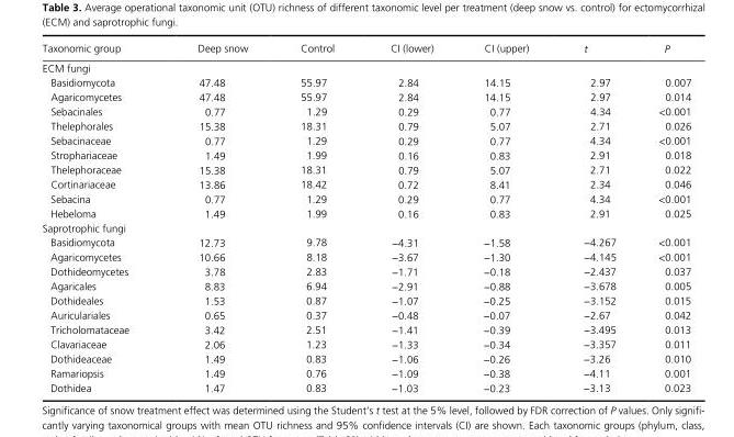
<table><thead><tr><td>Taxonomic group</td><td>Deep snow</td><td>Control</td><td>CI (lower)</td><td>CI (upper)</td><td>t</td><td>P</td></tr></thead><tbody><tr><td colspan="7">ECM fungi</td></tr><tr><td>Basidiomycota</td><td>47.48</td><td>55.97</td><td>2.84</td><td>14.15</td><td>2.97</td><td>0.007</td></tr><tr><td>Agaricomycetes</td><td>47.48</td><td>55.97</td><td>2.84</td><td>14.15</td><td>2.97</td><td>0.014</td></tr><tr><td>Sebacinales</td><td>0.77</td><td>1.29</td><td>0.29</td><td>0.77</td><td>4.34</td><td>&lt;0.001</td></tr><tr><td>Thelephorales</td><td>15.38</td><td>18.31</td><td>0.79</td><td>5.07</td><td>2.71</td><td>0.026</td></tr><tr><td>Sebacinaceae</td><td>0.77</td><td>1.29</td><td>0.29</td><td>0.77</td><td>4.34</td><td>&lt;0.001</td></tr><tr><td>Strophariaceae</td><td>1.49</td><td>1.99</td><td>0.16</td><td>0.83</td><td>2.91</td><td>0.018</td></tr><tr><td>Thelephoraceae</td><td>15.38</td><td>18.31</td><td>0.79</td><td>5.07</td><td>2.71</td><td>0.022</td></tr><tr><td>Cortinariaceae</td><td>13.86</td><td>18.42</td><td>0.72</td><td>8.41</td><td>2.34</td><td>0.046</td></tr><tr><td>Sebacina</td><td>0.77</td><td>1.29</td><td>0.29</td><td>0.77</td><td>4.34</td><td>&lt;0.001</td></tr><tr><td>Hebeloma</td><td>1.49</td><td>1.99</td><td>0.16</td><td>0.83</td><td>2.91</td><td>0.025</td></tr><tr><td colspan="7">Saprotrophic fungi</td></tr><tr><td>Basidiomycota</td><td>12.73</td><td>9.78</td><td>−4.31</td><td>−1.58</td><td>−4.267</td><td>&lt;0.001</td></tr><tr><td>Agaricomycetes</td><td>10.66</td><td>8.18</td><td>−3.67</td><td>−1.30</td><td>−4.145</td><td>&lt;0.001</td></tr><tr><td>Dothideomycetes</td><td>3.78</td><td>2.83</td><td>−1.71</td><td>−0.18</td><td>−2.437</td><td>0.037</td></tr><tr><td>Agaricales</td><td>8.83</td><td>6.94</td><td>−2.91</td><td>−0.88</td><td>−3.678</td><td>0.005</td></tr><tr><td>Dothideales</td><td>1.53</td><td>0.87</td><td>−1.07</td><td>−0.25</td><td>−3.152</td><td>0.015</td></tr><tr><td>Auriculariales</td><td>0.65</td><td>0.37</td><td>−0.48</td><td>−0.07</td><td>−2.67</td><td>0.042</td></tr><tr><td>Tricholomataceae</td><td>3.42</td><td>2.51</td><td>−1.41</td><td>−0.39</td><td>−3.495</td><td>0.013</td></tr><tr><td>Clavariaceae</td><td>2.06</td><td>1.23</td><td>−1.33</td><td>−0.34</td><td>−3.357</td><td>0.011</td></tr><tr><td>Dothideaceae</td><td>1.49</td><td>0.83</td><td>−1.06</td><td>−0.26</td><td>−3.26</td><td>0.010</td></tr><tr><td>Ramariopsis</td><td>1.49</td><td>0.76</td><td>−1.09</td><td>−0.38</td><td>−4.11</td><td>0.001</td></tr><tr><td>Dothidea</td><td>1.47</td><td>0.83</td><td>−1.03</td><td>−0.23</td><td>−3.13</td><td>0.023</td></tr></tbody></table>